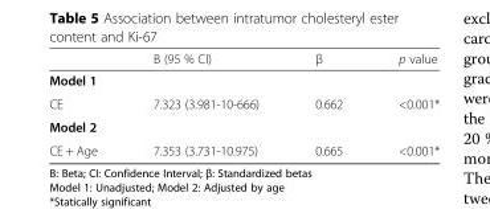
<table><thead><tr><td></td><td>B (95 % CI)</td><td>β</td><td>p value</td></tr></thead><tbody><tr><td colspan="4">Model 1</td></tr><tr><td>CE</td><td>7.323 (3.981-10-666)</td><td>0.662</td><td>&lt;0.001*</td></tr><tr><td colspan="4">Model 2</td></tr><tr><td>CE + Age</td><td>7.353 (3.731-10.975)</td><td>0.665</td><td>&lt;0.001*</td></tr></tbody></table>